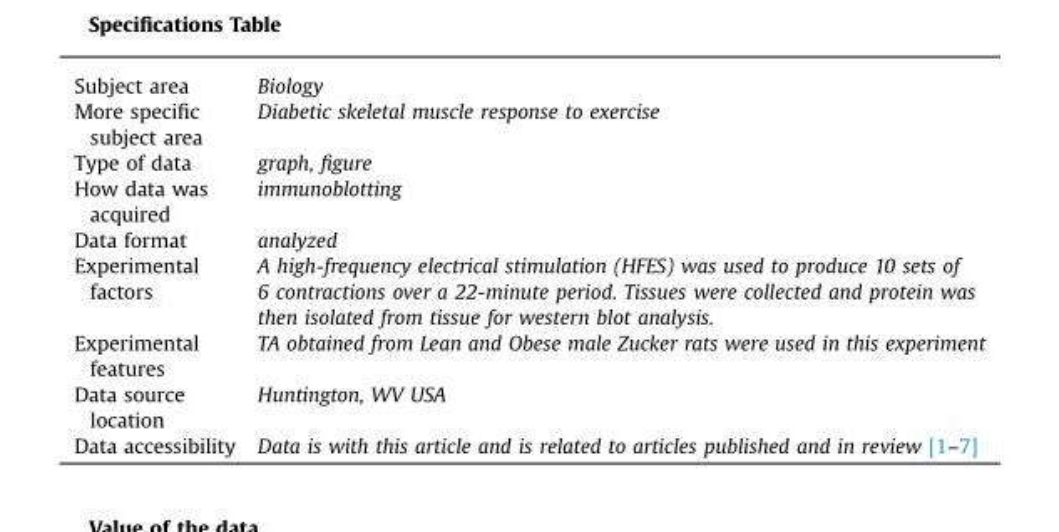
<table><thead><tr><td>Subject area</td><td>Biology</td></tr></thead><tbody><tr><td>More specific subject area</td><td>Diabetic skeletal muscle response to exercise</td></tr><tr><td>Type of data</td><td>graph, figure</td></tr><tr><td>How data was acquired</td><td>immunoblotting</td></tr><tr><td>Data format</td><td>analyzed</td></tr><tr><td>Experimental factors</td><td>A high-frequency electrical stimulation (HFES) was used to produce 10 sets of 6 contractions over a 22-minute period. Tissues were collected and protein was then isolated from tissue for western blot analysis.</td></tr><tr><td>Experimental features</td><td>TA obtained from Lean and Obese male Zucker rats were used in this experiment</td></tr><tr><td>Data source location</td><td>Huntington, WV USA</td></tr><tr><td>Data accessibility</td><td>Data is with this article and is related to articles published and in review [1–7]</td></tr></tbody></table>